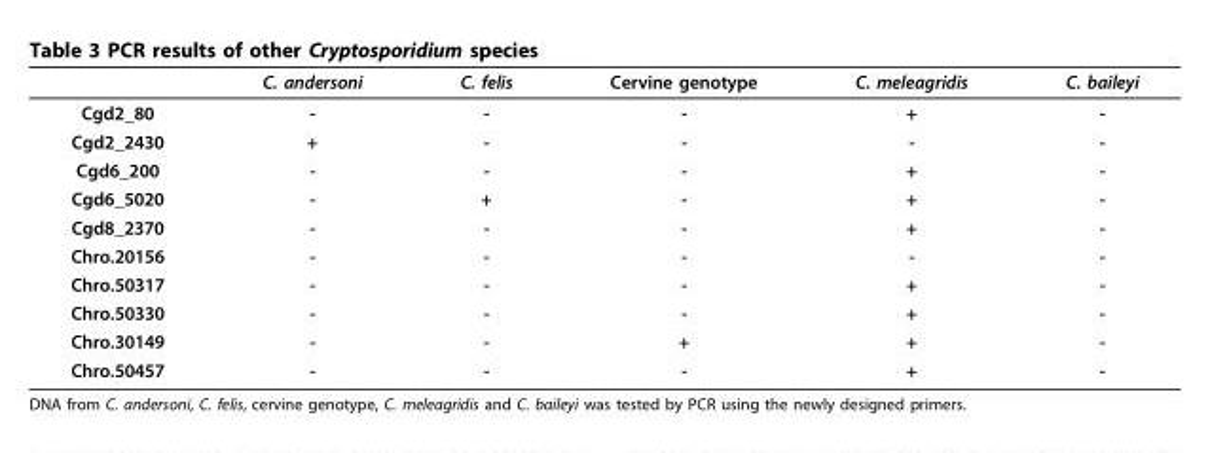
<table><thead><tr><td></td><td>C. andersoni</td><td>C. felis</td><td>Cervine genotype</td><td>C. meleagridis</td><td>C. baileyi</td></tr></thead><tbody><tr><td>Cgd2_80</td><td>-</td><td>-</td><td>-</td><td>+</td><td>-</td></tr><tr><td>Cgd2_2430</td><td>+</td><td>-</td><td>-</td><td>-</td><td>-</td></tr><tr><td>Cgd6_200</td><td>-</td><td>-</td><td>-</td><td>+</td><td>-</td></tr><tr><td>Cgd6_5020</td><td>-</td><td>+</td><td>-</td><td>+</td><td>-</td></tr><tr><td>Cgd8_2370</td><td>-</td><td>-</td><td>-</td><td>+</td><td>-</td></tr><tr><td>Chro.20156</td><td>-</td><td>-</td><td>-</td><td>-</td><td>-</td></tr><tr><td>Chro.50317</td><td>-</td><td>-</td><td>-</td><td>+</td><td>-</td></tr><tr><td>Chro.50330</td><td>-</td><td>-</td><td>-</td><td>+</td><td>-</td></tr><tr><td>Chro.30149</td><td>-</td><td>-</td><td>+</td><td>+</td><td>-</td></tr><tr><td>Chro.50457</td><td>-</td><td>-</td><td>-</td><td>+</td><td>-</td></tr></tbody></table>